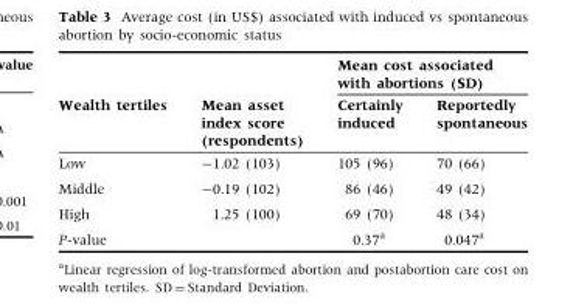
<table><thead><tr><td rowspan="2">Wealth tertiles</td><td rowspan="2">Mean asset index score (respondents)</td><td colspan="2">Mean cost associated with abortions (SD)</td></tr><tr><td>Certainly induced</td><td>Reportedly spontaneous</td></tr></thead><tbody><tr><td>Low</td><td>−1.02 (103)</td><td>105 (96)</td><td>70 (66)</td></tr><tr><td>Middle</td><td>−0.19 (102)</td><td>86 (46)</td><td>49 (42)</td></tr><tr><td>High</td><td>1.25 (100)</td><td>69 (70)</td><td>48 (34)</td></tr><tr><td>P-value</td><td></td><td>0.37<sup>a</sup></td><td>0.047<sup>a</sup></td></tr></tbody></table>